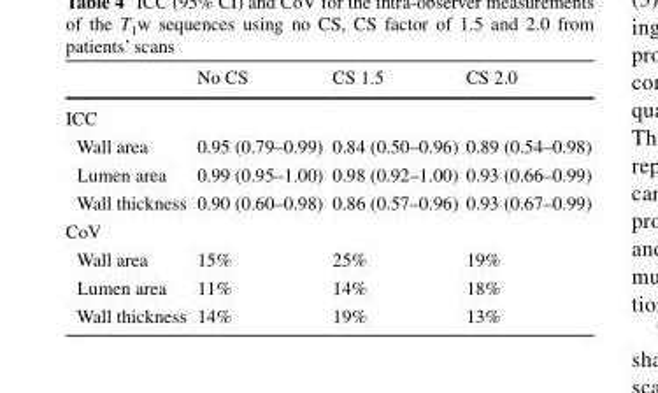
<table><thead><tr><td></td><td>No CS</td><td>CS 1.5</td><td>CS 2.0</td></tr></thead><tbody><tr><td colspan="4">ICC</td></tr><tr><td>Wall area</td><td>0.95 (0.79–0.99)</td><td>0.84 (0.50–0.96)</td><td>0.89 (0.54–0.98)</td></tr><tr><td>Lumen area</td><td>0.99 (0.95–1.00)</td><td>0.98 (0.92–1.00)</td><td>0.93 (0.66–0.99)</td></tr><tr><td>Wall thickness</td><td>0.90 (0.60–0.98)</td><td>0.86 (0.57–0.96)</td><td>0.93 (0.67–0.99)</td></tr><tr><td colspan="4">CoV</td></tr><tr><td>Wall area</td><td>15%</td><td>25%</td><td>19%</td></tr><tr><td>Lumen area</td><td>11%</td><td>14%</td><td>18%</td></tr><tr><td>Wall thickness</td><td>14%</td><td>19%</td><td>13%</td></tr></tbody></table>